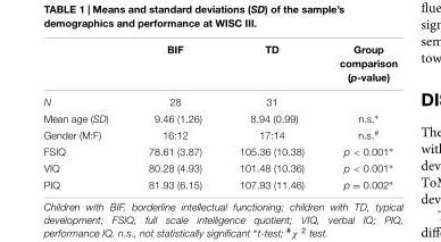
<table><thead><tr><td></td><td>BIF</td><td>TD</td><td>Group comparison (p-value)</td></tr></thead><tbody><tr><td>N</td><td>28</td><td>31</td><td></td></tr><tr><td>Mean age (SD)</td><td>9.46 (1.26)</td><td>8.94 (0.99)</td><td>n.s.∗</td></tr><tr><td>Gender (M:F)</td><td>16:12</td><td>17:14</td><td>n.s.<sup>#</sup></td></tr><tr><td>FSIQ</td><td>78.61 (3.87)</td><td>105.36 (10.38)</td><td>p &lt; 0.001∗</td></tr><tr><td>VIQ</td><td>80.28 (4.93)</td><td>101.48 (10.36)</td><td>p &lt; 0.001∗</td></tr><tr><td>PIQ</td><td>81.93 (6.15)</td><td>107.93 (11.46)</td><td>p = 0.002∗</td></tr></tbody></table>